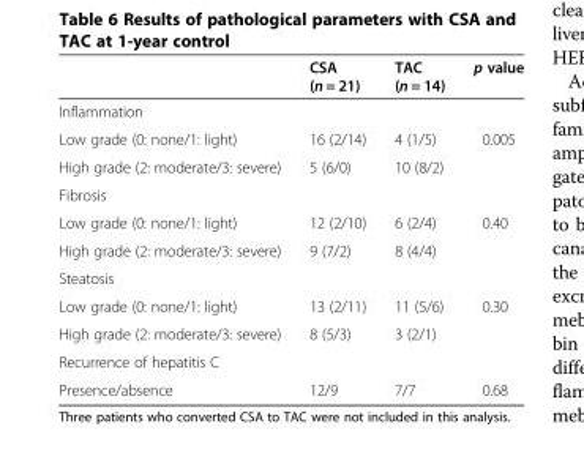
<table><thead><tr><td></td><td>CSA (n = 21)</td><td>TAC (n = 14)</td><td>p value</td></tr></thead><tbody><tr><td colspan="4">Inflammation</td></tr><tr><td>Low grade (0: none/1: light)</td><td>16 (2/14)</td><td>4 (1/5)</td><td>0.005</td></tr><tr><td>High grade (2: moderate/3: severe)</td><td>5 (6/0)</td><td>10 (8/2)</td><td></td></tr><tr><td colspan="4">Fibrosis</td></tr><tr><td>Low grade (0: none/1: light)</td><td>12 (2/10)</td><td>6 (2/4)</td><td>0.40</td></tr><tr><td>High grade (2: moderate/3: severe)</td><td>9 (7/2)</td><td>8 (4/4)</td><td></td></tr><tr><td colspan="4">Steatosis</td></tr><tr><td>Low grade (0: none/1: light)</td><td>13 (2/11)</td><td>11 (5/6)</td><td>0.30</td></tr><tr><td>High grade (2: moderate/3: severe)</td><td>8 (5/3)</td><td>3 (2/1)</td><td></td></tr><tr><td colspan="4">Recurrence of hepatitis C</td></tr><tr><td>Presence/absence</td><td>12/9</td><td>7/7</td><td>0.68</td></tr></tbody></table>